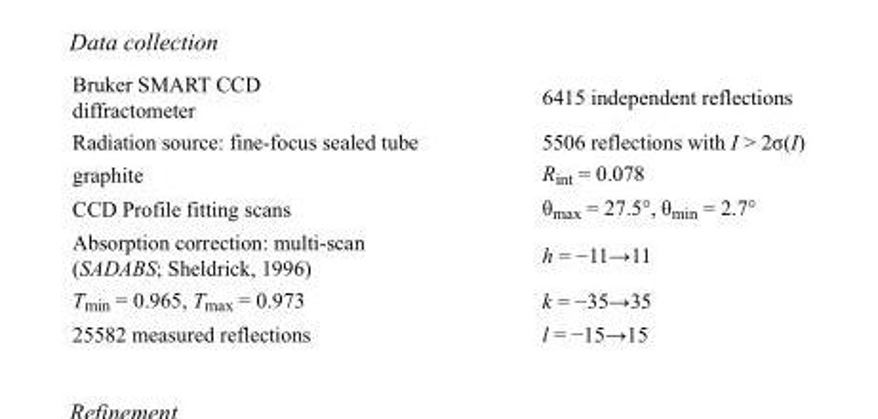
<table><tbody><tr><td>Bruker SMART CCD diffractometer</td><td>6415 independent reflections</td></tr><tr><td>Radiation source: fine-focus sealed tube</td><td>5506 reflections with I &gt; 2σ(I)</td></tr><tr><td>graphite</td><td>R<sub>int</sub> = 0.078</td></tr><tr><td>CCD Profile fitting scans</td><td>θ<sub>max</sub> = 27.5°, θ<sub>min</sub> = 2.7°</td></tr><tr><td>Absorption correction: multi-scan (SADABS; Sheldrick, 1996)</td><td>h = −11→11</td></tr><tr><td>T<sub>min</sub> = 0.965, T<sub>max</sub> = 0.973</td><td>k = −35→35</td></tr><tr><td>25582 measured reflections</td><td>l = −15→15</td></tr></tbody></table>